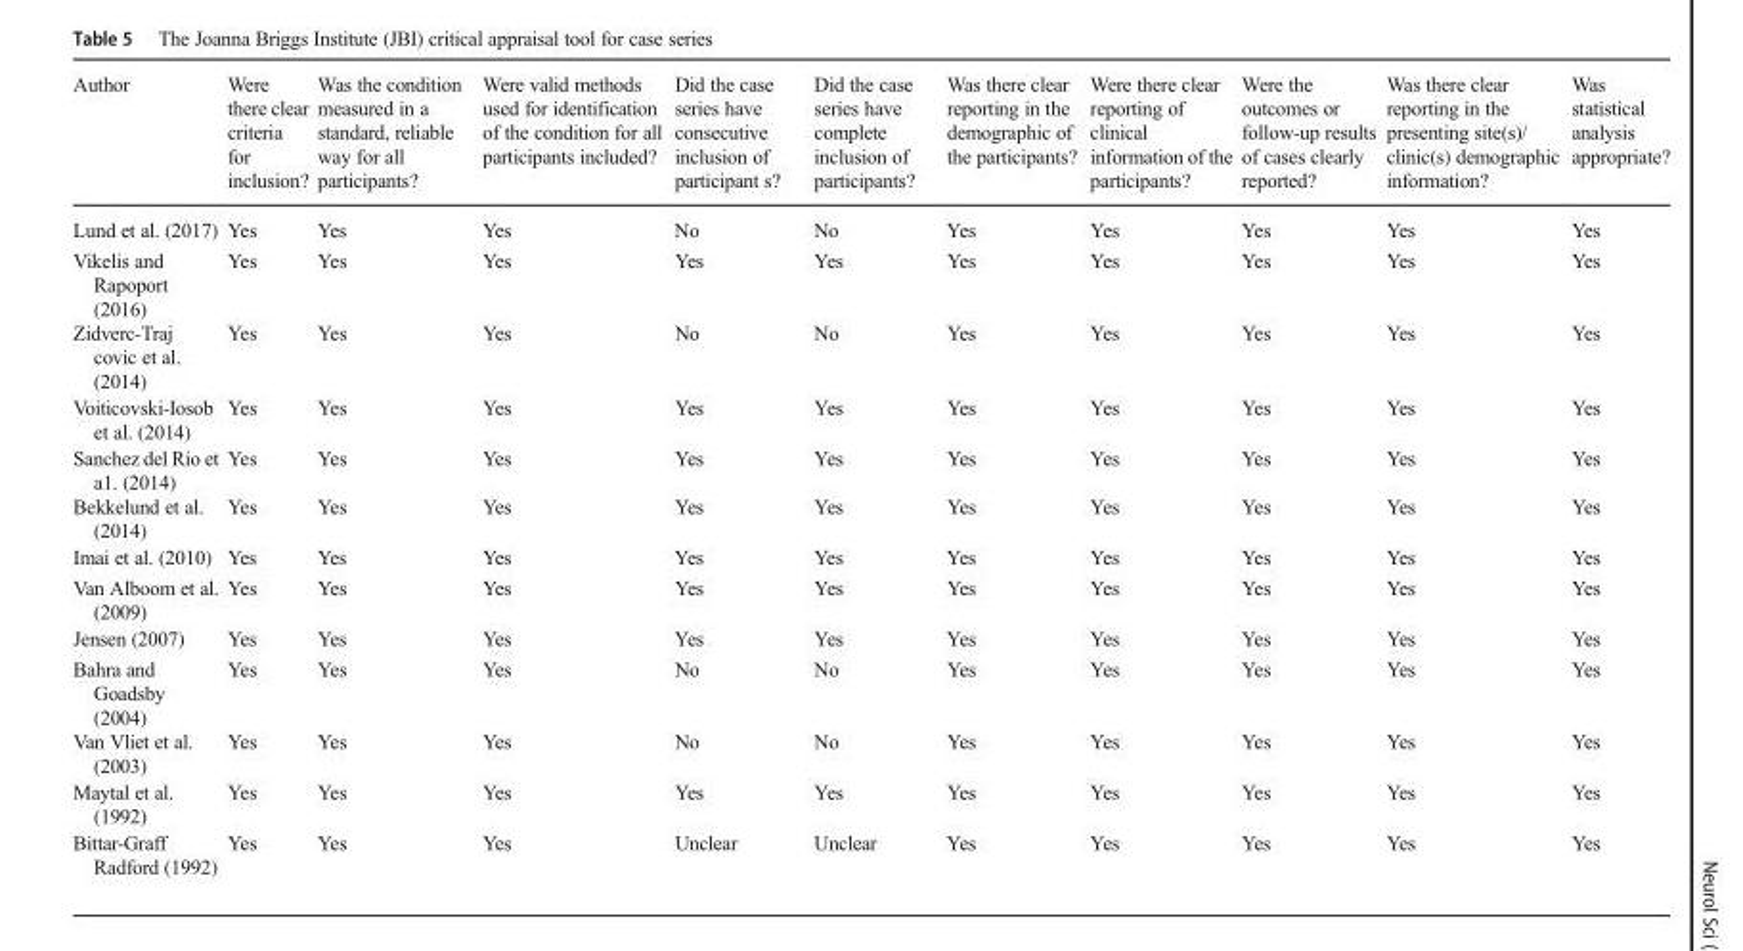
<table><thead><tr><td>Author</td><td>Were there clear criteria for inclusion?</td><td>Was the condition measured in a standard, reliable way for all participants?</td><td>Were valid methods used for identification of the condition for all participants included?</td><td>Did the case series have consecutive inclusion of participant s?</td><td>Did the case series have complete inclusion of participants?</td><td>Was there clear reporting in the demographic of the participants?</td><td>Were there clear reporting of clinical information of the participants?</td><td>Were the outcomes or follow-up results of cases clearly reported?</td><td>Was there clear reporting in the presenting site(s)/ clinic(s) demographic information?</td><td>Was statistical analysis appropriate?</td></tr></thead><tbody><tr><td>Lund et al. (2017)</td><td>Yes</td><td>Yes</td><td>Yes</td><td>No</td><td>No</td><td>Yes</td><td>Yes</td><td>Yes</td><td>Yes</td><td>Yes</td></tr><tr><td>Vikelis and Rapoport (2016)</td><td>Yes</td><td>Yes</td><td>Yes</td><td>Yes</td><td>Yes</td><td>Yes</td><td>Yes</td><td>Yes</td><td>Yes</td><td>Yes</td></tr><tr><td>Zidverc-Traj covic et al. (2014)</td><td>Yes</td><td>Yes</td><td>Yes</td><td>No</td><td>No</td><td>Yes</td><td>Yes</td><td>Yes</td><td>Yes</td><td>Yes</td></tr><tr><td>Voiticovski-Iosob et al. (2014)</td><td>Yes</td><td>Yes</td><td>Yes</td><td>Yes</td><td>Yes</td><td>Yes</td><td>Yes</td><td>Yes</td><td>Yes</td><td>Yes</td></tr><tr><td>Sanchez del Rio et a1. (2014)</td><td>Yes</td><td>Yes</td><td>Yes</td><td>Yes</td><td>Yes</td><td>Yes</td><td>Yes</td><td>Yes</td><td>Yes</td><td>Yes</td></tr><tr><td>Bekkelund et al. (2014)</td><td>Yes</td><td>Yes</td><td>Yes</td><td>Yes</td><td>Yes</td><td>Yes</td><td>Yes</td><td>Yes</td><td>Yes</td><td>Yes</td></tr><tr><td>Imai et al. (2010)</td><td>Yes</td><td>Yes</td><td>Yes</td><td>Yes</td><td>Yes</td><td>Yes</td><td>Yes</td><td>Yes</td><td>Yes</td><td>Yes</td></tr><tr><td>Van Alboom et al. (2009)</td><td>Yes</td><td>Yes</td><td>Yes</td><td>Yes</td><td>Yes</td><td>Yes</td><td>Yes</td><td>Yes</td><td>Yes</td><td>Yes</td></tr><tr><td>Jensen (2007)</td><td>Yes</td><td>Yes</td><td>Yes</td><td>Yes</td><td>Yes</td><td>Yes</td><td>Yes</td><td>Yes</td><td>Yes</td><td>Yes</td></tr><tr><td>Bahra and Goadsby (2004)</td><td>Yes</td><td>Yes</td><td>Yes</td><td>No</td><td>No</td><td>Yes</td><td>Yes</td><td>Yes</td><td>Yes</td><td>Yes</td></tr><tr><td>Van Vliet et al. (2003)</td><td>Yes</td><td>Yes</td><td>Yes</td><td>No</td><td>No</td><td>Yes</td><td>Yes</td><td>Yes</td><td>Yes</td><td>Yes</td></tr><tr><td>Maytal et al. (1992)</td><td>Yes</td><td>Yes</td><td>Yes</td><td>Yes</td><td>Yes</td><td>Yes</td><td>Yes</td><td>Yes</td><td>Yes</td><td>Yes</td></tr><tr><td>Bittar-Graff Radford (1992)</td><td>Yes</td><td>Yes</td><td>Yes</td><td>Unclear</td><td>Unclear</td><td>Yes</td><td>Yes</td><td>Yes</td><td>Yes</td><td>Yes</td></tr></tbody></table>